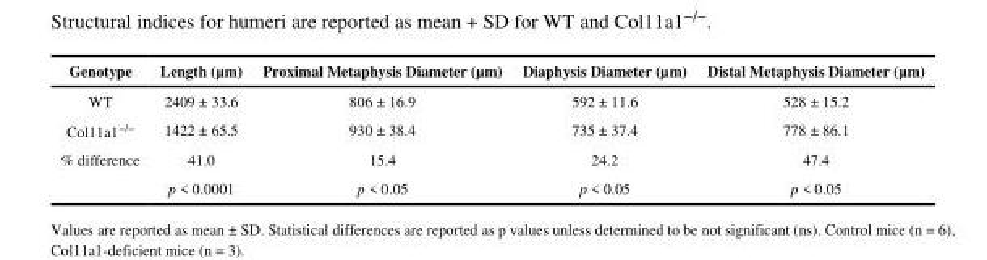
<table><thead><tr><td>Genotype</td><td>Length (μm)</td><td>Proximal Metaphysis Diameter (μm)</td><td>Diaphysis Diameter (μm)</td><td>Distal Metaphysis Diameter (μm)</td></tr></thead><tbody><tr><td>WT</td><td>2409 ± 33.6</td><td>806 ± 16.9</td><td>592 ± 11.6</td><td>528 ± 15.2</td></tr><tr><td>Col11a1<sup>−/−</sup></td><td>1422 ± 65.5</td><td>930 ± 38.4</td><td>735 ± 37.4</td><td>778 ± 86.1</td></tr><tr><td rowspan="2">% difference</td><td>41.0</td><td>15.4</td><td>24.2</td><td>47.4</td></tr><tr><td>p &lt; 0.0001</td><td>p &lt; 0.05</td><td>p &lt; 0.05</td><td>p &lt; 0.05</td></tr></tbody></table>